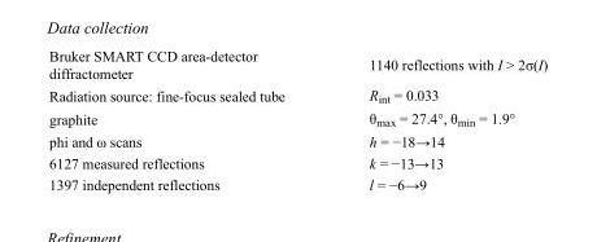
<table><tbody><tr><td>Bruker SMART CCD area-detector diffractometer</td><td>1140 reflections with I &gt; 2σ(I)</td></tr><tr><td>Radiation source: fine-focus sealed tube</td><td>R<sub>int</sub> = 0.033</td></tr><tr><td>graphite</td><td>θ<sub>max</sub> = 27.4°, θ<sub>min</sub> = 1.9°</td></tr><tr><td>phi and ω scans</td><td>h = −18→14</td></tr><tr><td>6127 measured reflections</td><td>k = −13→13</td></tr><tr><td>1397 independent reflections</td><td>l = −6→9</td></tr></tbody></table>